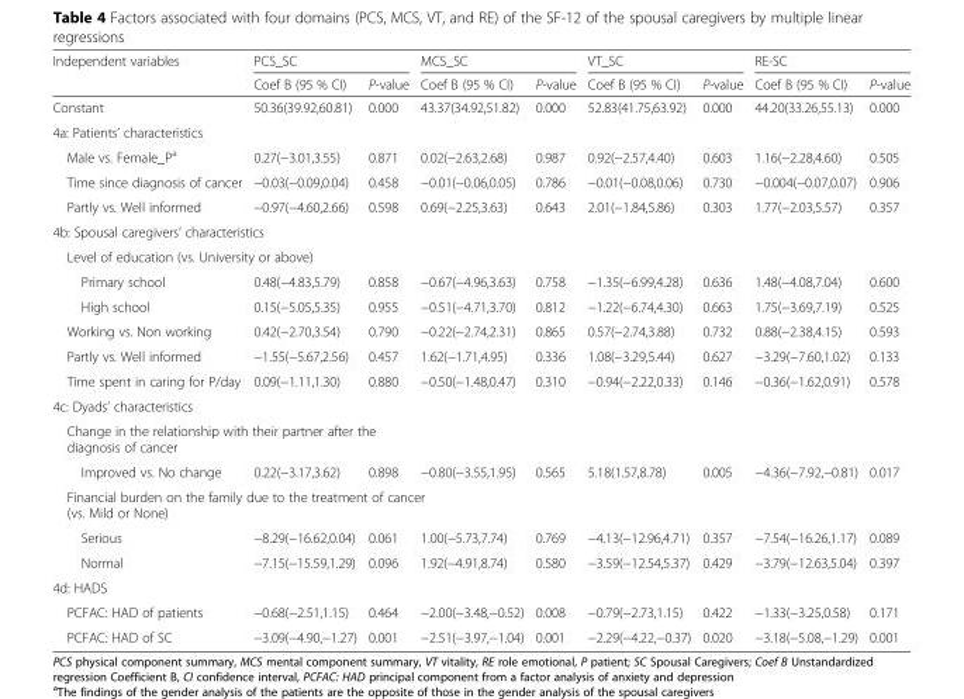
<table><thead><tr><td rowspan="2">Independent variables</td><td colspan="2">PCS_SC</td><td colspan="2">MCS_SC</td><td colspan="2">VT_SC</td><td colspan="2">RE-SC</td></tr><tr><td>Coef B (95 % CI)</td><td>P-value</td><td>Coef B (95 % CI)</td><td>P-value</td><td>Coef B (95 % CI)</td><td>P-value</td><td>Coef B (95 % CI)</td><td>P-value</td></tr></thead><tbody><tr><td>Constant</td><td>50.36(39.92,60.81)</td><td>0.000</td><td>43.37(34.92,51.82)</td><td>0.000</td><td>52.83(41.75,63.92)</td><td>0.000</td><td>44.20(33.26,55.13)</td><td>0.000</td></tr><tr><td colspan="9">4a: Patients’ characteristics</td></tr><tr><td>Male vs. Female_P<sup>a</sup></td><td>0.27(−3.01,3.55)</td><td>0.871</td><td>0.02(−2.63,2.68)</td><td>0.987</td><td>0.92(−2.57,4.40)</td><td>0.603</td><td>1.16(−2.28,4.60)</td><td>0.505</td></tr><tr><td>Time since diagnosis of cancer</td><td>−0.03(−0.09,0.04)</td><td>0.458</td><td>−0.01(−0.06,0.05)</td><td>0.786</td><td>−0.01(−0.08,0.06)</td><td>0.730</td><td>−0.004(−0.07,0.07)</td><td>0.906</td></tr><tr><td>Partly vs. Well informed</td><td>−0.97(−4.60,2.66)</td><td>0.598</td><td>0.69(−2.25,3.63)</td><td>0.643</td><td>2.01(−1.84,5.86)</td><td>0.303</td><td>1.77(−2.03,5.57)</td><td>0.357</td></tr><tr><td colspan="9">4b: Spousal caregivers’ characteristics</td></tr><tr><td colspan="9">Level of education (vs. University or above)</td></tr><tr><td>Primary school</td><td>0.48(−4.83,5.79)</td><td>0.858</td><td>−0.67(−4.96,3.63)</td><td>0.758</td><td>−1.35(−6.99,4.28)</td><td>0.636</td><td>1.48(−4.08,7.04)</td><td>0.600</td></tr><tr><td>High school</td><td>0.15(−5.05,5.35)</td><td>0.955</td><td>−0.51(−4.71,3.70)</td><td>0.812</td><td>−1.22(−6.74,4.30)</td><td>0.663</td><td>1.75(−3.69,7.19)</td><td>0.525</td></tr><tr><td>Working vs. Non working</td><td>0.42(−2.70,3.54)</td><td>0.790</td><td>−0.22(−2.74,2.31)</td><td>0.865</td><td>0.57(−2.74,3.88)</td><td>0.732</td><td>0.88(−2.38,4.15)</td><td>0.593</td></tr><tr><td>Partly vs. Well informed</td><td>−1.55(−5.67,2.56)</td><td>0.457</td><td>1.62(−1.71,4.95)</td><td>0.336</td><td>1.08(−3.29,5.44)</td><td>0.627</td><td>−3.29(−7.60,1.02)</td><td>0.133</td></tr><tr><td>Time spent in caring for P/day</td><td>0.09(−1.11,1.30)</td><td>0.880</td><td>−0.50(−1.48,0.47)</td><td>0.310</td><td>−0.94(−2.22,0.33)</td><td>0.146</td><td>−0.36(−1.62,0.91)</td><td>0.578</td></tr><tr><td colspan="9">4c: Dyads’ characteristics</td></tr><tr><td colspan="9">Change in the relationship with their partner after the diagnosis of cancer</td></tr><tr><td>Improved vs. No change</td><td>0.22(−3.17,3.62)</td><td>0.898</td><td>−0.80(−3.55,1.95)</td><td>0.565</td><td>5.18(1.57,8.78)</td><td>0.005</td><td>−4.36(−7.92,−0.81)</td><td>0.017</td></tr><tr><td colspan="9">Financial burden on the family due to the treatment of cancer (vs. Mild or None)</td></tr><tr><td>Serious</td><td>−8.29(−16.62,0.04)</td><td>0.061</td><td>1.00(−5.73,7.74)</td><td>0.769</td><td>−4.13(−12.96,4.71)</td><td>0.357</td><td>−7.54(−16.26,1.17)</td><td>0.089</td></tr><tr><td>Normal</td><td>−7.15(−15.59,1.29)</td><td>0.096</td><td>1.92(−4.91,8.74)</td><td>0.580</td><td>−3.59(−12.54,5.37)</td><td>0.429</td><td>−3.79(−12.63,5.04)</td><td>0.397</td></tr><tr><td colspan="9">4d: HADS</td></tr><tr><td>PCFAC: HAD of patients</td><td>−0.68(−2.51,1.15)</td><td>0.464</td><td>−2.00(−3.48,−0.52)</td><td>0.008</td><td>−0.79(−2.73,1.15)</td><td>0.422</td><td>−1.33(−3.25,0.58)</td><td>0.171</td></tr><tr><td>PCFAC: HAD of SC</td><td>−3.09(−4.90,−1.27)</td><td>0.001</td><td>−2.51(−3.97,−1.04)</td><td>0.001</td><td>−2.29(−4.22,−0.37)</td><td>0.020</td><td>−3.18(−5.08,−1.29)</td><td>0.001</td></tr></tbody></table>